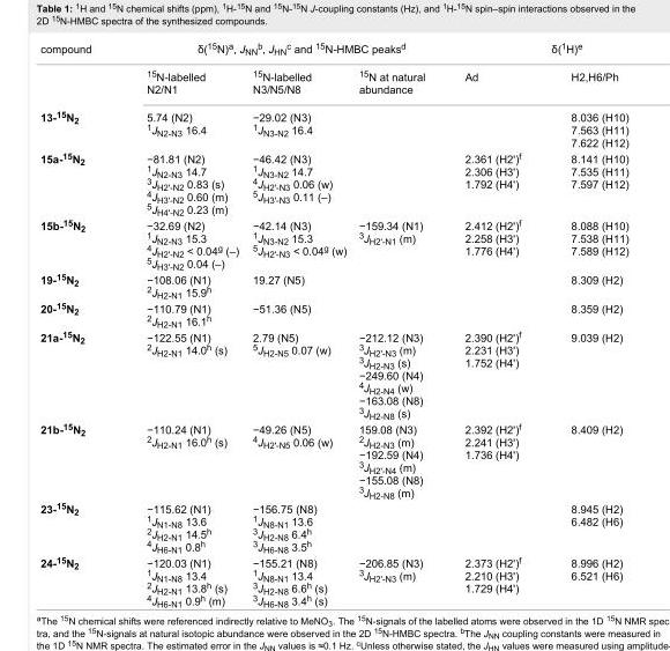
<table><tbody><tr><td rowspan="2">compound</td><td colspan="3">δ(<sup>15</sup>N)<sup>a</sup>, J<sub>NN</sub><sup>b</sup>, J<sub>HN</sub><sup>c</sup> and <sup>15</sup>N-HMBC peaks<sup>d</sup></td><td colspan="2">δ(<sup>1</sup>H)<sup>e</sup></td></tr><tr><td><sup>15</sup>N-labelled N2/N1</td><td><sup>15</sup>N-labelled N3/N5/N8</td><td><sup>15</sup>N at natural abundance</td><td>Ad</td><td>H2,H6/Ph</td></tr><tr><td>13-<sup>15</sup>N<sub>2</sub></td><td>5.74 (N2) <sup>1</sup>J<sub>N2-N3</sub> 16.4</td><td>−29.02 (N3) <sup>1</sup>J<sub>N3-N2</sub> 16.4</td><td></td><td></td><td>8.036 (H10) 7.563 (H11) 7.622 (H12)</td></tr><tr><td>15a-<sup>15</sup>N<sub>2</sub></td><td>−81.81 (N2) <sup>1</sup>J<sub>N2-N3</sub> 14.7 <sup>3</sup>J<sub>H2&#x27;-N2</sub> 0.83 (s) <sup>4</sup>J<sub>H3&#x27;-N2</sub> 0.60 (m) <sup>5</sup>J<sub>H4&#x27;-N2</sub> 0.23 (m)</td><td>−46.42 (N3) <sup>1</sup>J<sub>N3-N2</sub> 14.7 <sup>4</sup>J<sub>H2&#x27;-N3</sub> 0.06 (w) <sup>5</sup>J<sub>H3&#x27;-N3</sub> 0.11 (–)</td><td></td><td>2.361 (H2&#x27;)<sup>f</sup> 2.306 (H3&#x27;) 1.792 (H4&#x27;)</td><td>8.141 (H10) 7.535 (H11) 7.597 (H12)</td></tr><tr><td>15b-<sup>15</sup>N<sub>2</sub></td><td>−32.69 (N2) <sup>1</sup>J<sub>N2-N3</sub> 15.3 <sup>4</sup>J<sub>H2&#x27;-N2</sub> &lt; 0.04<sup>g</sup> (–) <sup>5</sup>J<sub>H3&#x27;-N2</sub> 0.04 (–)</td><td>−42.14 (N3) <sup>1</sup>J<sub>N3-N2</sub> 15.3 <sup>5</sup>J<sub>H2&#x27;-N3</sub> &lt; 0.04<sup>g</sup> (w)</td><td>−159.34 (N1) <sup>3</sup>J<sub>H2&#x27;-N1</sub> (m)</td><td>2.412 (H2&#x27;)<sup>f</sup> 2.258 (H3&#x27;) 1.776 (H4&#x27;)</td><td>8.088 (H10) 7.538 (H11) 7.589 (H12)</td></tr><tr><td>19-<sup>15</sup>N<sub>2</sub></td><td>−108.06 (N1) <sup>2</sup>J<sub>H2-N1</sub> 15.9<sup>h</sup></td><td>19.27 (N5)</td><td></td><td></td><td>8.309 (H2)</td></tr><tr><td>20-<sup>15</sup>N<sub>2</sub></td><td>−110.79 (N1) <sup>2</sup>J<sub>H2-N1</sub> 16.1<sup>h</sup></td><td>−51.36 (N5)</td><td></td><td></td><td>8.359 (H2)</td></tr><tr><td>21a-<sup>15</sup>N<sub>2</sub></td><td>−122.55 (N1) <sup>2</sup>J<sub>H2-N1</sub> 14.0<sup>h</sup> (s)</td><td>2.79 (N5) <sup>5</sup>J<sub>H2-N5</sub> 0.07 (w)</td><td>−212.12 (N3) <sup>3</sup>J<sub>H2&#x27;-N3</sub> (m) <sup>3</sup>J<sub>H2-N3</sub> (s) −249.60 (N4) <sup>4</sup>J<sub>H2-N4</sub> (w) −163.08 (N8) <sup>3</sup>J<sub>H2-N8</sub> (s)</td><td>2.390 (H2&#x27;)<sup>f</sup> 2.231 (H3&#x27;) 1.752 (H4&#x27;)</td><td>9.039 (H2)</td></tr><tr><td>21b-<sup>15</sup>N<sub>2</sub></td><td>−110.24 (N1) <sup>2</sup>J<sub>H2-N1</sub> 16.0<sup>h</sup> (s)</td><td>−49.26 (N5) <sup>4</sup>J<sub>H2&#x27;-N5</sub> 0.06 (w)</td><td>159.08 (N3) <sup>2</sup>J<sub>H2-N3</sub> (m) −192.59 (N4) <sup>3</sup>J<sub>H2&#x27;-N4</sub> (m) −155.08 (N8) <sup>3</sup>J<sub>H2-N8</sub> (m)</td><td>2.392 (H2&#x27;)<sup>f</sup> 2.241 (H3&#x27;) 1.736 (H4&#x27;)</td><td>8.409 (H2)</td></tr><tr><td>23-<sup>15</sup>N<sub>2</sub></td><td>−115.62 (N1) <sup>1</sup>J<sub>N1-N8</sub> 13.6 <sup>2</sup>J<sub>H2-N1</sub> 14.5<sup>h 4</sup>J<sub>H6-N1</sub> 0.8<sup>h</sup></td><td>−156.75 (N8) <sup>1</sup>J<sub>N8-N1</sub> 13.6 <sup>3</sup>J<sub>H2-N8</sub> 6.4<sup>h 3</sup>J<sub>H6-N8</sub> 3.5<sup>h</sup></td><td></td><td></td><td>8.945 (H2) 6.482 (H6)</td></tr><tr><td>24-<sup>15</sup>N<sub>2</sub></td><td>−120.03 (N1) <sup>1</sup>J<sub>N1-N8</sub> 13.4 <sup>2</sup>J<sub>H2-N1</sub> 13.8<sup>h</sup> (s) <sup>4</sup>J<sub>H6-N1</sub> 0.9<sup>h</sup> (m)</td><td>−155.21 (N8) <sup>1</sup>J<sub>N8-N1</sub> 13.4 <sup>3</sup>J<sub>H2-N8</sub> 6.6<sup>h</sup> (s) <sup>3</sup>J<sub>H6-N8</sub> 3.4<sup>h</sup> (s)</td><td>−206.85 (N3) <sup>3</sup>J<sub>H2&#x27;-N3</sub> (m)</td><td>2.373 (H2&#x27;)<sup>f</sup> 2.210 (H3&#x27;) 1.729 (H4&#x27;)</td><td>8.996 (H2) 6.521 (H6)</td></tr></tbody></table>